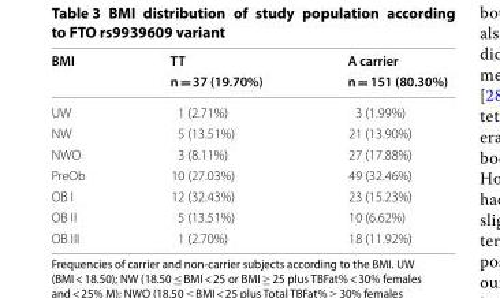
<table><thead><tr><td rowspan="2">BMI</td><td rowspan="2">TT n = 37 (19.70%)</td><td rowspan="2">A carrier n = 151 (80.30%)</td></tr><tr></tr></thead><tbody><tr><td>UW</td><td>1 (2.71%)</td><td>3 (1.99%)</td></tr><tr><td>NW</td><td>5 (13.51%)</td><td>21 (13.90%)</td></tr><tr><td>NWO</td><td>3 (8.11%)</td><td>27 (17.88%)</td></tr><tr><td>PreOb</td><td>10 (27.03%)</td><td>49 (32.46%)</td></tr><tr><td>OB I</td><td>12 (32.43%)</td><td>23 (15.23%)</td></tr><tr><td>OB II</td><td>5 (13.51%)</td><td>10 (6.62%)</td></tr><tr><td>OB III</td><td>1 (2.70%)</td><td>18 (11.92%)</td></tr></tbody></table>